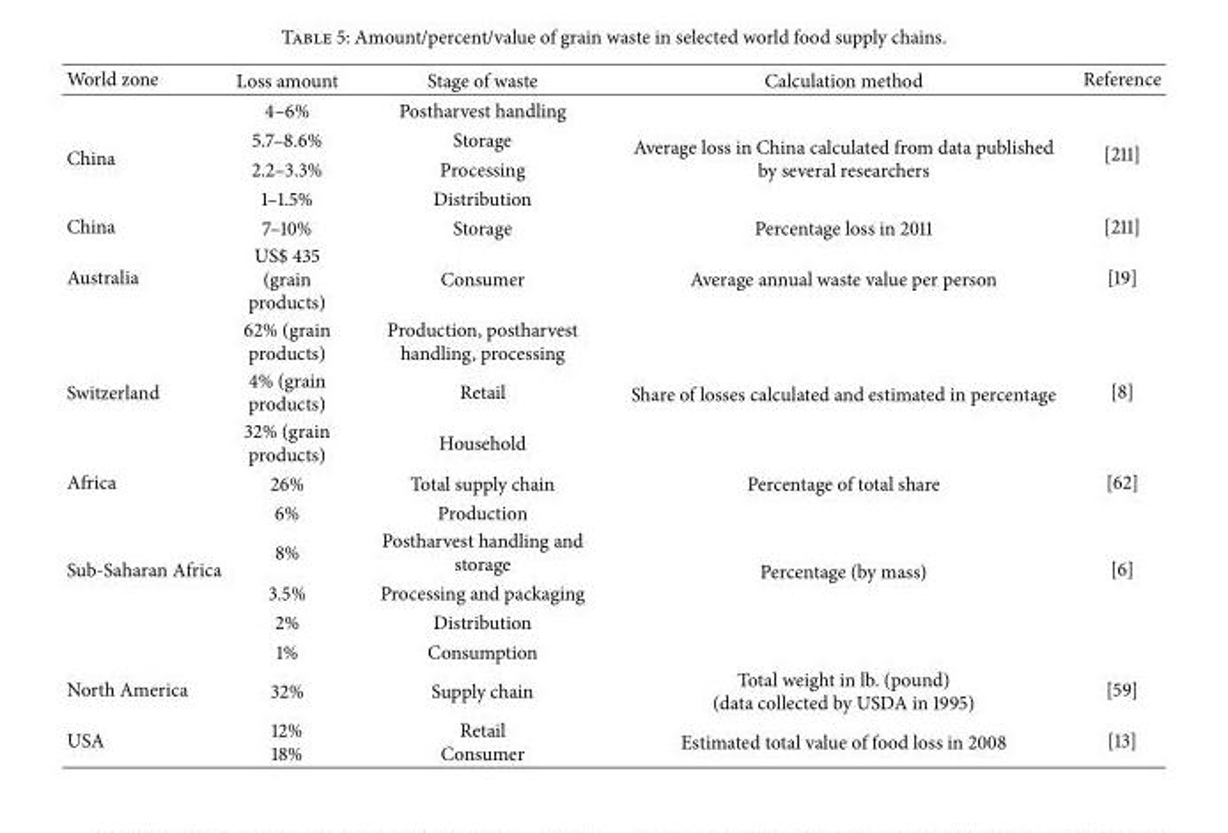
<table><thead><tr><td>World zone</td><td>Loss amount</td><td>Stage of waste</td><td>Calculation method</td><td>Reference</td></tr></thead><tbody><tr><td rowspan="4">China</td><td>4–6%</td><td>Postharvest handling</td><td rowspan="4">Average loss in China calculated from data published by several researchers</td><td rowspan="4">[211]</td></tr><tr><td>5.7–8.6%</td><td>Storage</td></tr><tr><td>2.2–3.3%</td><td>Processing</td></tr><tr><td>1–1.5%</td><td>Distribution</td></tr><tr><td>China</td><td>7–10%</td><td>Storage</td><td>Percentage loss in 2011</td><td>[211]</td></tr><tr><td>Australia</td><td>US$ 435 (grain products)</td><td>Consumer</td><td>Average annual waste value per person</td><td>[19]</td></tr><tr><td rowspan="3">Switzerland</td><td>62% (grain products)</td><td>Production, postharvest handling, processing</td><td rowspan="3">Share of losses calculated and estimated in percentage</td><td rowspan="3">[8]</td></tr><tr><td>4% (grain products)</td><td>Retail</td></tr><tr><td>32% (grain products)</td><td>Household</td></tr><tr><td>Africa</td><td>26%</td><td>Total supply chain</td><td>Percentage of total share</td><td>[62]</td></tr><tr><td rowspan="5">Sub-Saharan Africa</td><td>6%</td><td>Production</td><td rowspan="5">Percentage (by mass)</td><td rowspan="5">[6]</td></tr><tr><td>8%</td><td>Postharvest handling and storage</td></tr><tr><td>3.5%</td><td>Processing and packaging</td></tr><tr><td>2%</td><td>Distribution</td></tr><tr><td>1%</td><td>Consumption</td></tr><tr><td>North America</td><td>32%</td><td>Supply chain</td><td>Total weight in lb. (pound) (data collected by USDA in 1995)</td><td>[59]</td></tr><tr><td>USA</td><td>12% 18%</td><td>Retail Consumer</td><td>Estimated total value of food loss in 2008</td><td>[13]</td></tr></tbody></table>